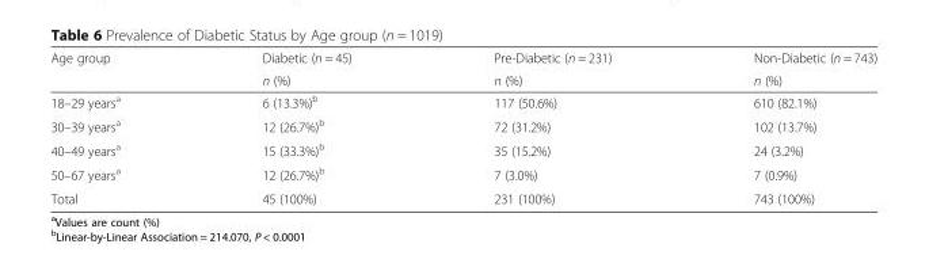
<table><thead><tr><td rowspan="2">Age group</td><td rowspan="2">Diabetic (n = 45) n (%)</td><td rowspan="2">Pre-Diabetic (n = 231) n (%)</td><td rowspan="2">Non-Diabetic (n = 743) n (%)</td></tr><tr></tr></thead><tbody><tr><td>18–29 years<sup>a</sup></td><td>6 (13.3%)<sup>b</sup></td><td>117 (50.6%)</td><td>610 (82.1%)</td></tr><tr><td>30–39 years<sup>a</sup></td><td>12 (26.7%)<sup>b</sup></td><td>72 (31.2%)</td><td>102 (13.7%)</td></tr><tr><td>40–49 years<sup>a</sup></td><td>15 (33.3%)<sup>b</sup></td><td>35 (15.2%)</td><td>24 (3.2%)</td></tr><tr><td>50–67 years<sup>a</sup></td><td>12 (26.7%)<sup>b</sup></td><td>7 (3.0%)</td><td>7 (0.9%)</td></tr><tr><td>Total</td><td>45 (100%)</td><td>231 (100%)</td><td>743 (100%)</td></tr></tbody></table>